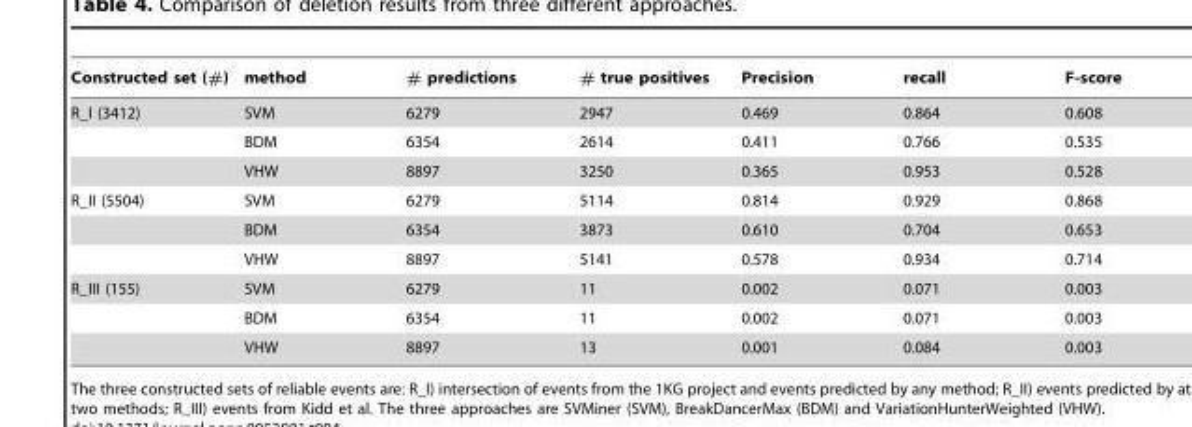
<table><thead><tr><td>Constructed set (#)</td><td>method</td><td># predictions</td><td># true positives</td><td>Precision</td><td>recall</td><td>F-score</td></tr></thead><tbody><tr><td rowspan="3">R_I (3412)</td><td>SVM</td><td>6279</td><td>2947</td><td>0.469</td><td>0.864</td><td>0.608</td></tr><tr><td>BDM</td><td>6354</td><td>2614</td><td>0.411</td><td>0.766</td><td>0.535</td></tr><tr><td>VHW</td><td>8897</td><td>3250</td><td>0.365</td><td>0.953</td><td>0.528</td></tr><tr><td rowspan="3">R_II (5504)</td><td>SVM</td><td>6279</td><td>5114</td><td>0.814</td><td>0.929</td><td>0.868</td></tr><tr><td>BDM</td><td>6354</td><td>3873</td><td>0.610</td><td>0.704</td><td>0.653</td></tr><tr><td>VHW</td><td>8897</td><td>5141</td><td>0.578</td><td>0.934</td><td>0.714</td></tr><tr><td rowspan="3">R_III (155)</td><td>SVM</td><td>6279</td><td>11</td><td>0.002</td><td>0.071</td><td>0.003</td></tr><tr><td>BDM</td><td>6354</td><td>11</td><td>0.002</td><td>0.071</td><td>0.003</td></tr><tr><td>VHW</td><td>8897</td><td>13</td><td>0.001</td><td>0.084</td><td>0.003</td></tr></tbody></table>